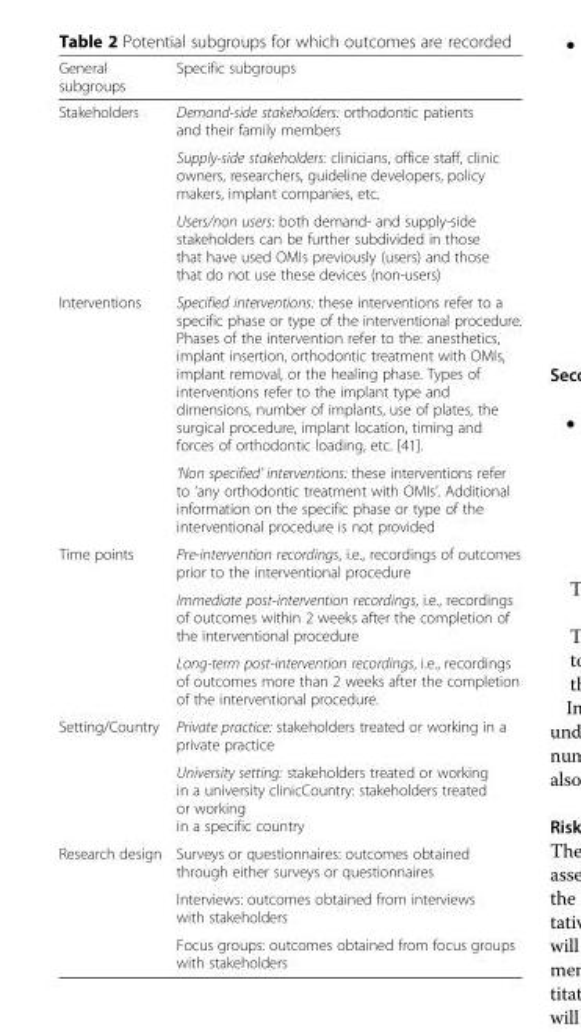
<table><thead><tr><td>General subgroups</td><td>Specific subgroups</td></tr></thead><tbody><tr><td rowspan="3">Stakeholders</td><td>Demand-side stakeholders: orthodontic patients and their family members</td></tr><tr><td>Supply-side stakeholders: clinicians, office staff, clinic owners, researchers, guideline developers, policy makers, implant companies, etc.</td></tr><tr><td>Users/non users: both demand- and supply-side stakeholders can be further subdivided in those that have used OMIs previously (users) and those that do not use these devices (non-users)</td></tr><tr><td rowspan="2">Interventions</td><td>Specified interventions: these interventions refer to a specific phase or type of the interventional procedure. Phases of the intervention refer to the: anesthetics, implant insertion, orthodontic treatment with OMIs, implant removal, or the healing phase. Types of interventions refer to the implant type and dimensions, number of implants, use of plates, the surgical procedure, implant location, timing and forces of orthodontic loading, etc. [41].</td></tr><tr><td>‘Non specified’ interventions: these interventions refer to ‘any orthodontic treatment with OMIs’. Additional information on the specific phase or type of the interventional procedure is not provided</td></tr><tr><td rowspan="3">Time points</td><td>Pre-intervention recordings, i.e., recordings of outcomes prior to the interventional procedure</td></tr><tr><td>Immediate post-intervention recordings, i.e., recordings of outcomes within 2 weeks after the completion of the interventional procedure</td></tr><tr><td>Long-term post-intervention recordings, i.e., recordings of outcomes more than 2 weeks after the completion of the interventional procedure.</td></tr><tr><td rowspan="2">Setting/Country</td><td>Private practice: stakeholders treated or working in a private practice</td></tr><tr><td>University setting: stakeholders treated or working in a university clinicCountry: stakeholders treated or working in a specific country</td></tr><tr><td rowspan="3">Research design</td><td>Surveys or questionnaires: outcomes obtained through either surveys or questionnaires</td></tr><tr><td>Interviews: outcomes obtained from interviews with stakeholders</td></tr><tr><td>Focus groups: outcomes obtained from focus groups with stakeholders</td></tr></tbody></table>